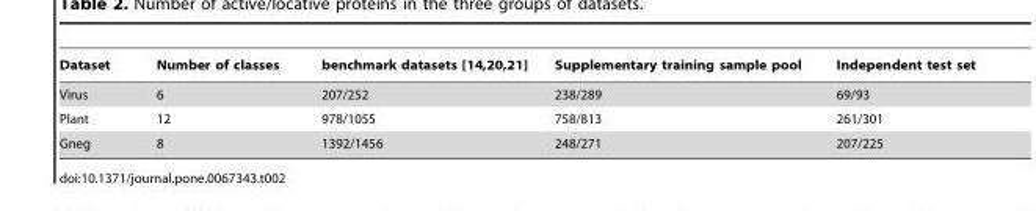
<table><thead><tr><td>Dataset</td><td>Number of classes</td><td>benchmark datasets [14,20,21]</td><td>Supplementary training sample pool</td><td>Independent test set</td></tr></thead><tbody><tr><td>Virus</td><td>6</td><td>207/252</td><td>238/289</td><td>69/93</td></tr><tr><td>Plant</td><td>12</td><td>978/1055</td><td>758/813</td><td>261/301</td></tr><tr><td>Gneg</td><td>8</td><td>1392/1456</td><td>248/271</td><td>207/225</td></tr></tbody></table>